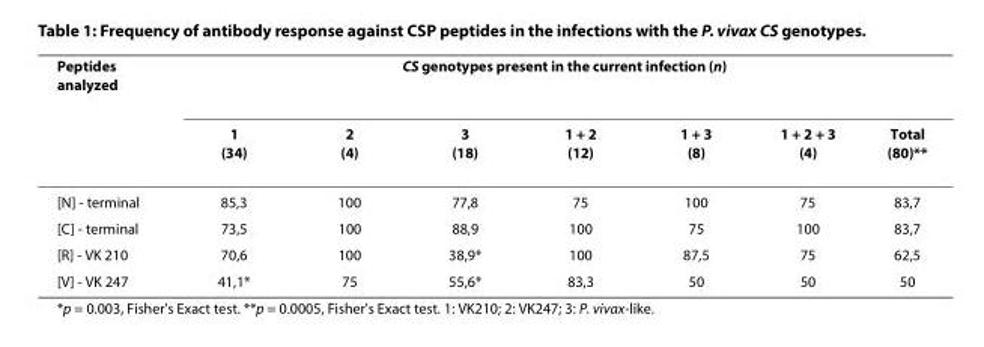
<table><thead><tr><td rowspan="2">Peptides analyzed</td><td colspan="7">CS genotypes present in the current infection (n)</td></tr><tr><td>1 (34)</td><td>2 (4)</td><td>3 (18)</td><td>1 + 2 (12)</td><td>1 + 3 (8)</td><td>1 + 2 + 3 (4)</td><td>Total (80)**</td></tr></thead><tbody><tr><td>[N] - terminal</td><td>85,3</td><td>100</td><td>77,8</td><td>75</td><td>100</td><td>75</td><td>83,7</td></tr><tr><td>[C] - terminal</td><td>73,5</td><td>100</td><td>88,9</td><td>100</td><td>75</td><td>100</td><td>83,7</td></tr><tr><td>[R] - VK 210</td><td>70,6</td><td>100</td><td>38,9*</td><td>100</td><td>87,5</td><td>75</td><td>62,5</td></tr><tr><td>[V] - VK 247</td><td>41,1*</td><td>75</td><td>55,6*</td><td>83,3</td><td>50</td><td>50</td><td>50</td></tr></tbody></table>